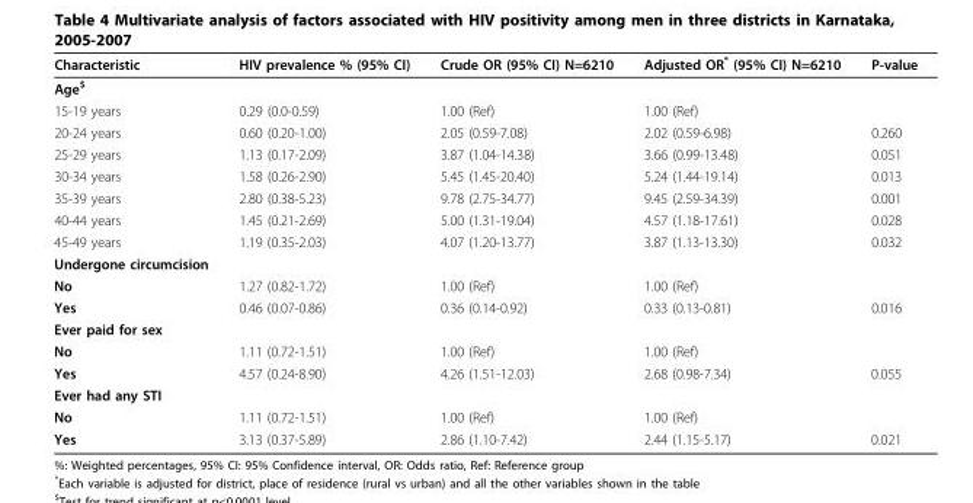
<table><thead><tr><td>Characteristic</td><td>HIV prevalence % (95% CI)</td><td>Crude OR (95% CI) N=6210</td><td>Adjusted OR* (95% CI) N=6210</td><td>P-value</td></tr></thead><tbody><tr><td colspan="5">Age<sup>$</sup></td></tr><tr><td>15-19 years</td><td>0.29 (0.0-0.59)</td><td>1.00 (Ref)</td><td>1.00 (Ref)</td><td></td></tr><tr><td>20-24 years</td><td>0.60 (0.20-1.00)</td><td>2.05 (0.59-7.08)</td><td>2.02 (0.59-6.98)</td><td>0.260</td></tr><tr><td>25-29 years</td><td>1.13 (0.17-2.09)</td><td>3.87 (1.04-14.38)</td><td>3.66 (0.99-13.48)</td><td>0.051</td></tr><tr><td>30-34 years</td><td>1.58 (0.26-2.90)</td><td>5.45 (1.45-20.40)</td><td>5.24 (1.44-19.14)</td><td>0.013</td></tr><tr><td>35-39 years</td><td>2.80 (0.38-5.23)</td><td>9.78 (2.75-34.77)</td><td>9.45 (2.59-34.39)</td><td>0.001</td></tr><tr><td>40-44 years</td><td>1.45 (0.21-2.69)</td><td>5.00 (1.31-19.04)</td><td>4.57 (1.18-17.61)</td><td>0.028</td></tr><tr><td>45-49 years</td><td>1.19 (0.35-2.03)</td><td>4.07 (1.20-13.77)</td><td>3.87 (1.13-13.30)</td><td>0.032</td></tr><tr><td colspan="5">Undergone circumcision</td></tr><tr><td>No</td><td>1.27 (0.82-1.72)</td><td>1.00 (Ref)</td><td>1.00 (Ref)</td><td></td></tr><tr><td>Yes</td><td>0.46 (0.07-0.86)</td><td>0.36 (0.14-0.92)</td><td>0.33 (0.13-0.81)</td><td>0.016</td></tr><tr><td colspan="5">Ever paid for sex</td></tr><tr><td>No</td><td>1.11 (0.72-1.51)</td><td>1.00 (Ref)</td><td>1.00 (Ref)</td><td></td></tr><tr><td>Yes</td><td>4.57 (0.24-8.90)</td><td>4.26 (1.51-12.03)</td><td>2.68 (0.98-7.34)</td><td>0.055</td></tr><tr><td colspan="5">Ever had any STI</td></tr><tr><td>No</td><td>1.11 (0.72-1.51)</td><td>1.00 (Ref)</td><td>1.00 (Ref)</td><td></td></tr><tr><td>Yes</td><td>3.13 (0.37-5.89)</td><td>2.86 (1.10-7.42)</td><td>2.44 (1.15-5.17)</td><td>0.021</td></tr></tbody></table>